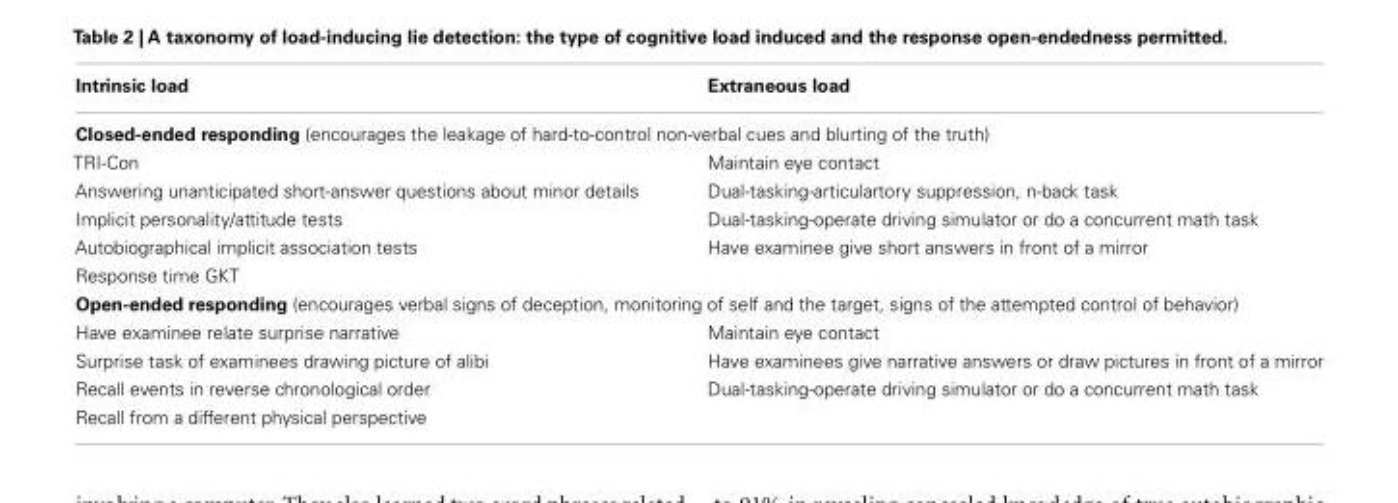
<table><thead><tr><td>Intrinsic load</td><td>Extraneous load</td></tr></thead><tbody><tr><td colspan="2">Closed-ended responding (encourages the leakage of hard-to-control non-verbal cues and blurting of the truth)</td></tr><tr><td>TRI-Con</td><td>Maintain eye contact</td></tr><tr><td>Answering unanticipated short-answer questions about minor details</td><td>Dual-tasking-articulartory suppression, n-back task</td></tr><tr><td>Implicit personality/attitude tests</td><td>Dual-tasking-operate driving simulator or do a concurrent math task</td></tr><tr><td>Autobiographical implicit association tests</td><td>Have examinee give short answers in front of a mirror</td></tr><tr><td colspan="2">Response time GKT</td></tr><tr><td colspan="2">Open-ended responding (encourages verbal signs of deception, monitoring of self and the target, signs of the attempted control of behavior)</td></tr><tr><td>Have examinee relate surprise narrative</td><td>Maintain eye contact</td></tr><tr><td>Surprise task of examinees drawing picture of alibi</td><td>Have examinees give narrative answers or draw pictures in front of a mirror</td></tr><tr><td>Recall events in reverse chronological order</td><td>Dual-tasking-operate driving simulator or do a concurrent math task</td></tr><tr><td>Recall from a different physical perspective</td><td></td></tr></tbody></table>